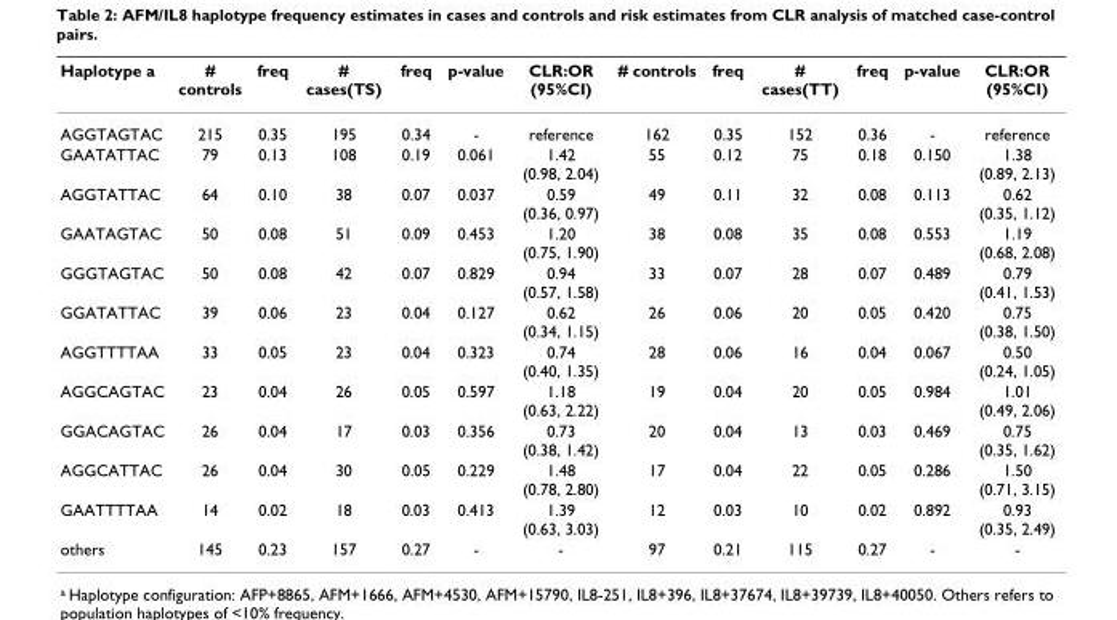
<table><thead><tr><td>Haplotype a</td><td># controls</td><td>freq</td><td># cases(TS)</td><td>freq</td><td>p-value</td><td>CLR:OR (95%CI)</td><td># controls</td><td>freq</td><td># cases(TT)</td><td>freq</td><td>p-value</td><td>CLR:OR (95%CI)</td></tr></thead><tbody><tr><td>AGGTAGTAC</td><td>215</td><td>0.35</td><td>195</td><td>0.34</td><td>-</td><td>reference</td><td>162</td><td>0.35</td><td>152</td><td>0.36</td><td>-</td><td>reference</td></tr><tr><td>GAATATTAC</td><td>79</td><td>0.13</td><td>108</td><td>0.19</td><td>0.061</td><td>1.42 (0.98, 2.04)</td><td>55</td><td>0.12</td><td>75</td><td>0.18</td><td>0.150</td><td>1.38 (0.89, 2.13)</td></tr><tr><td>AGGTATTAC</td><td>64</td><td>0.10</td><td>38</td><td>0.07</td><td>0.037</td><td>0.59 (0.36, 0.97)</td><td>49</td><td>0.11</td><td>32</td><td>0.08</td><td>0.113</td><td>0.62 (0.35, 1.12)</td></tr><tr><td>GAATAGTAC</td><td>50</td><td>0.08</td><td>51</td><td>0.09</td><td>0.453</td><td>1.20 (0.75, 1.90)</td><td>38</td><td>0.08</td><td>35</td><td>0.08</td><td>0.553</td><td>1.19 (0.68, 2.08)</td></tr><tr><td>GGGTAGTAC</td><td>50</td><td>0.08</td><td>42</td><td>0.07</td><td>0.829</td><td>0.94 (0.57, 1.58)</td><td>33</td><td>0.07</td><td>28</td><td>0.07</td><td>0.489</td><td>0.79 (0.41, 1.53)</td></tr><tr><td>GGATATTAC</td><td>39</td><td>0.06</td><td>23</td><td>0.04</td><td>0.127</td><td>0.62 (0.34, 1.15)</td><td>26</td><td>0.06</td><td>20</td><td>0.05</td><td>0.420</td><td>0.75 (0.38, 1.50)</td></tr><tr><td>AGGTTTTAA</td><td>33</td><td>0.05</td><td>23</td><td>0.04</td><td>0.323</td><td>0.74 (0.40, 1.35)</td><td>28</td><td>0.06</td><td>16</td><td>0.04</td><td>0.067</td><td>0.50 (0.24, 1.05)</td></tr><tr><td>AGGCAGTAC</td><td>23</td><td>0.04</td><td>26</td><td>0.05</td><td>0.597</td><td>1.18 (0.63, 2.22)</td><td>19</td><td>0.04</td><td>20</td><td>0.05</td><td>0.984</td><td>1.01 (0.49, 2.06)</td></tr><tr><td>GGACAGTAC</td><td>26</td><td>0.04</td><td>17</td><td>0.03</td><td>0.356</td><td>0.73 (0.38, 1.42)</td><td>20</td><td>0.04</td><td>13</td><td>0.03</td><td>0.469</td><td>0.75 (0.35, 1.62)</td></tr><tr><td>AGGCATTAC</td><td>26</td><td>0.04</td><td>30</td><td>0.05</td><td>0.229</td><td>1.48 (0.78, 2.80)</td><td>17</td><td>0.04</td><td>22</td><td>0.05</td><td>0.286</td><td>1.50 (0.71, 3.15)</td></tr><tr><td>GAATTTTAA</td><td>14</td><td>0.02</td><td>18</td><td>0.03</td><td>0.413</td><td>1.39 (0.63, 3.03)</td><td>12</td><td>0.03</td><td>10</td><td>0.02</td><td>0.892</td><td>0.93 (0.35, 2.49)</td></tr><tr><td>others</td><td>145</td><td>0.23</td><td>157</td><td>0.27</td><td>-</td><td>-</td><td>97</td><td>0.21</td><td>115</td><td>0.27</td><td>-</td><td>-</td></tr></tbody></table>